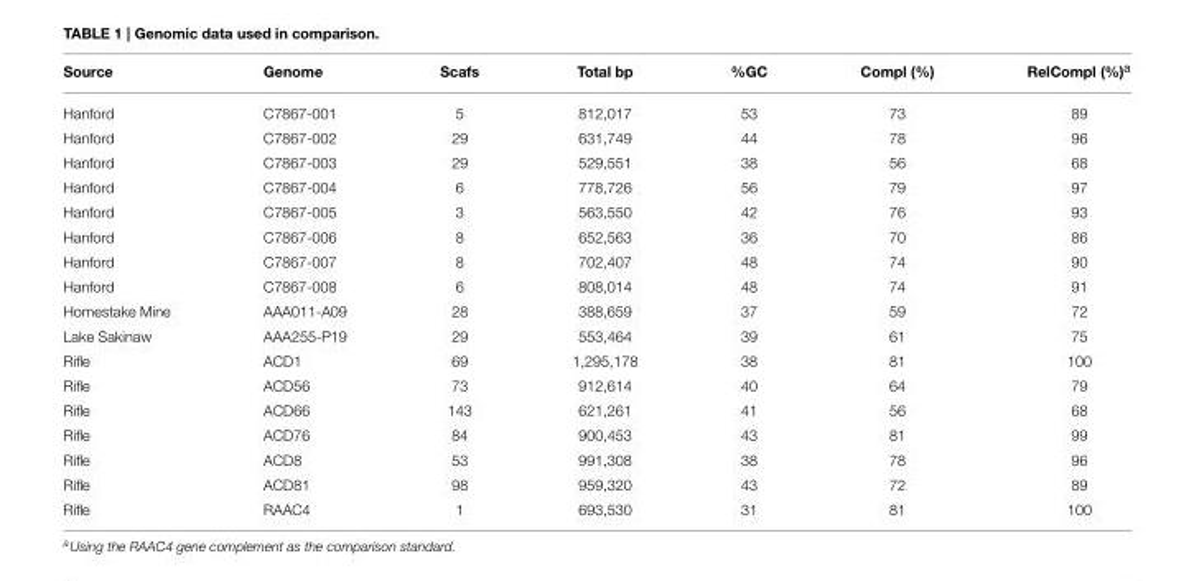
<table><thead><tr><td>Source</td><td>Genome</td><td>Scafs</td><td>Total bp</td><td>%GC</td><td>Compl (%)</td><td>RelCompl (%)<sup>a</sup></td></tr></thead><tbody><tr><td>Hanford</td><td>C7867-001</td><td>5</td><td>812,017</td><td>53</td><td>73</td><td>89</td></tr><tr><td>Hanford</td><td>C7867-002</td><td>29</td><td>631,749</td><td>44</td><td>78</td><td>96</td></tr><tr><td>Hanford</td><td>C7867-003</td><td>29</td><td>529,551</td><td>38</td><td>56</td><td>68</td></tr><tr><td>Hanford</td><td>C7867-004</td><td>6</td><td>778,726</td><td>56</td><td>79</td><td>97</td></tr><tr><td>Hanford</td><td>C7867-005</td><td>3</td><td>563,550</td><td>42</td><td>76</td><td>93</td></tr><tr><td>Hanford</td><td>C7867-006</td><td>8</td><td>652,563</td><td>36</td><td>70</td><td>86</td></tr><tr><td>Hanford</td><td>C7867-007</td><td>8</td><td>702,407</td><td>48</td><td>74</td><td>90</td></tr><tr><td>Hanford</td><td>C7867-008</td><td>6</td><td>808,014</td><td>48</td><td>74</td><td>91</td></tr><tr><td>Homestake Mine</td><td>AAA011-A09</td><td>28</td><td>388,659</td><td>37</td><td>59</td><td>72</td></tr><tr><td>Lake Sakinaw</td><td>AAA255-P19</td><td>29</td><td>553,464</td><td>39</td><td>61</td><td>75</td></tr><tr><td>Rifle</td><td>ACD1</td><td>69</td><td>1,295,178</td><td>38</td><td>81</td><td>100</td></tr><tr><td>Rifle</td><td>ACD56</td><td>73</td><td>912,614</td><td>40</td><td>64</td><td>79</td></tr><tr><td>Rifle</td><td>ACD66</td><td>143</td><td>621,261</td><td>41</td><td>56</td><td>68</td></tr><tr><td>Rifle</td><td>ACD76</td><td>84</td><td>900,453</td><td>43</td><td>81</td><td>99</td></tr><tr><td>Rifle</td><td>ACD8</td><td>53</td><td>991,308</td><td>38</td><td>78</td><td>96</td></tr><tr><td>Rifle</td><td>ACD81</td><td>98</td><td>959,320</td><td>43</td><td>72</td><td>89</td></tr><tr><td>Rifle</td><td>RAAC4</td><td>1</td><td>693,530</td><td>31</td><td>81</td><td>100</td></tr></tbody></table>